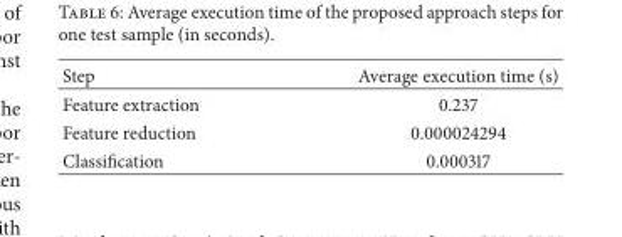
<table><thead><tr><td>Step</td><td>Average execution time (s)</td></tr></thead><tbody><tr><td>Feature extraction</td><td>0.237</td></tr><tr><td>Feature reduction</td><td>0.000024294</td></tr><tr><td>Classification</td><td>0.000317</td></tr></tbody></table>